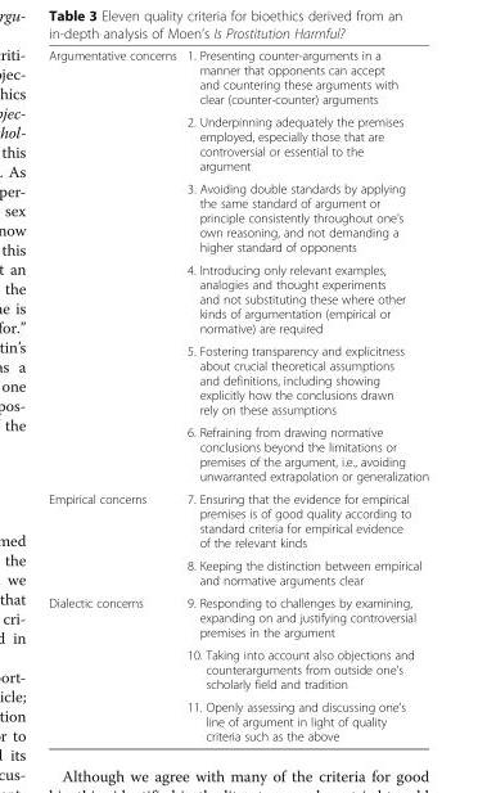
<table><tbody><tr><td rowspan="6">Argumentative concerns</td><td>1. Presenting counter-arguments in a manner that opponents can accept and countering these arguments with clear (counter-counter) arguments</td></tr><tr><td>2. Underpinning adequately the premises employed, especially those that are controversial or essential to the argument</td></tr><tr><td>3. Avoiding double standards by applying the same standard of argument or principle consistently throughout one’s own reasoning, and not demanding a higher standard of opponents</td></tr><tr><td>4. Introducing only relevant examples, analogies and thought experiments and not substituting these where other kinds of argumentation (empirical or normative) are required</td></tr><tr><td>5. Fostering transparency and explicitness about crucial theoretical assumptions and definitions, including showing explicitly how the conclusions drawn rely on these assumptions</td></tr><tr><td>6. Refraining from drawing normative conclusions beyond the limitations or premises of the argument, i.e., avoiding unwarranted extrapolation or generalization</td></tr><tr><td rowspan="2">Empirical concerns</td><td>7. Ensuring that the evidence for empirical premises is of good quality according to standard criteria for empirical evidence of the relevant kinds</td></tr><tr><td>8. Keeping the distinction between empirical and normative arguments clear</td></tr><tr><td rowspan="3">Dialectic concerns</td><td>9. Responding to challenges by examining, expanding on and justifying controversial premises in the argument</td></tr><tr><td>10. Taking into account also objections and counterarguments from outside one’s scholarly field and tradition</td></tr><tr><td>11. Openly assessing and discussing one’s line of argument in light of quality criteria such as the above</td></tr></tbody></table>